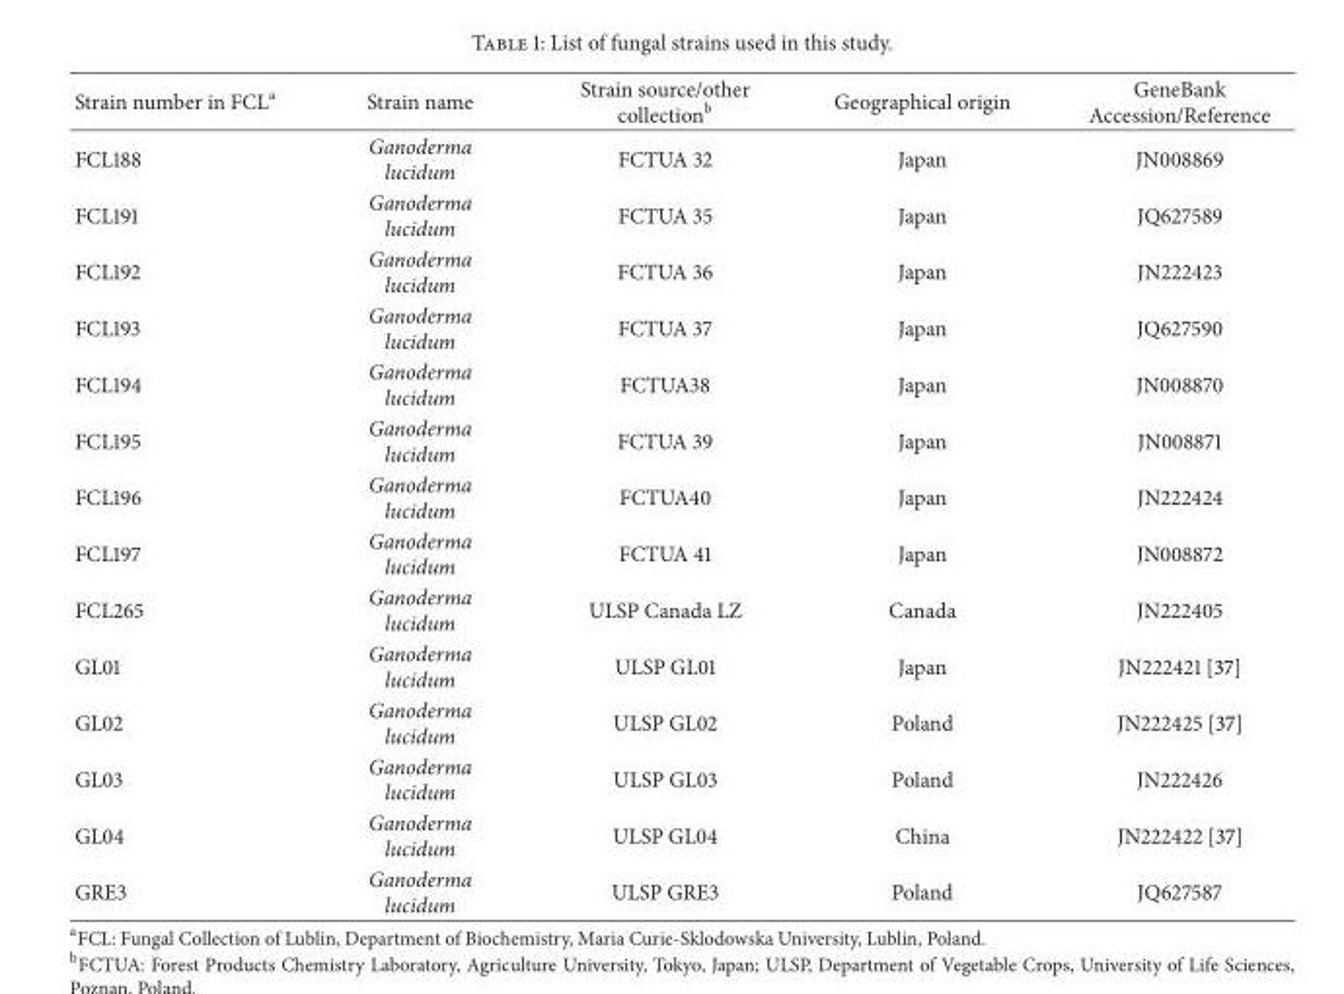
<table><thead><tr><td>Strain number in FCL<sup>a</sup></td><td>Strain name</td><td>Strain source/other collection<sup>b</sup></td><td>Geographical origin</td><td>GeneBank Accession/Reference</td></tr></thead><tbody><tr><td>FCL188</td><td>Ganoderma lucidum</td><td>FCTUA 32</td><td>Japan</td><td>JN008869</td></tr><tr><td>FCL191</td><td>Ganoderma lucidum</td><td>FCTUA 35</td><td>Japan</td><td>JQ627589</td></tr><tr><td>FCL192</td><td>Ganoderma lucidum</td><td>FCTUA 36</td><td>Japan</td><td>JN222423</td></tr><tr><td>FCL193</td><td>Ganoderma lucidum</td><td>FCTUA 37</td><td>Japan</td><td>JQ627590</td></tr><tr><td>FCL194</td><td>Ganoderma lucidum</td><td>FCTUA38</td><td>Japan</td><td>JN008870</td></tr><tr><td>FCL195</td><td>Ganoderma lucidum</td><td>FCTUA 39</td><td>Japan</td><td>JN008871</td></tr><tr><td>FCL196</td><td>Ganoderma lucidum</td><td>FCTUA40</td><td>Japan</td><td>JN222424</td></tr><tr><td>FCL197</td><td>Ganoderma lucidum</td><td>FCTUA 41</td><td>Japan</td><td>JN008872</td></tr><tr><td>FCL265</td><td>Ganoderma lucidum</td><td>ULSP Canada LZ</td><td>Canada</td><td>JN222405</td></tr><tr><td>GL01</td><td>Ganoderma lucidum</td><td>ULSP GL01</td><td>Japan</td><td>JN222421 [37]</td></tr><tr><td>GL02</td><td>Ganoderma lucidum</td><td>ULSP GL02</td><td>Poland</td><td>JN222425 [37]</td></tr><tr><td>GL03</td><td>Ganoderma lucidum</td><td>ULSP GL03</td><td>Poland</td><td>JN222426</td></tr><tr><td>GL04</td><td>Ganoderma lucidum</td><td>ULSP GL04</td><td>China</td><td>JN222422 [37]</td></tr><tr><td>GRE3</td><td>Ganoderma lucidum</td><td>ULSP GRE3</td><td>Poland</td><td>JQ627587</td></tr></tbody></table>